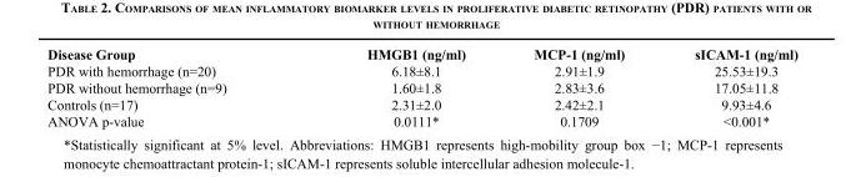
<table><thead><tr><td>Disease Group</td><td>HMGB1 (ng/ml)</td><td>MCP-1 (ng/ml)</td><td>sICAM-1 (ng/ml)</td></tr></thead><tbody><tr><td>PDR with hemorrhage (n=20)</td><td>6.18±8.1</td><td>2.91±1.9</td><td>25.53±19.3</td></tr><tr><td>PDR without hemorrhage (n=9)</td><td>1.60±1.8</td><td>2.83±3.6</td><td>17.05±11.8</td></tr><tr><td>Controls (n=17)</td><td>2.31±2.0</td><td>2.42±2.1</td><td>9.93±4.6</td></tr><tr><td>ANOVA p-value</td><td>0.0111*</td><td>0.1709</td><td>&lt;0.001*</td></tr></tbody></table>